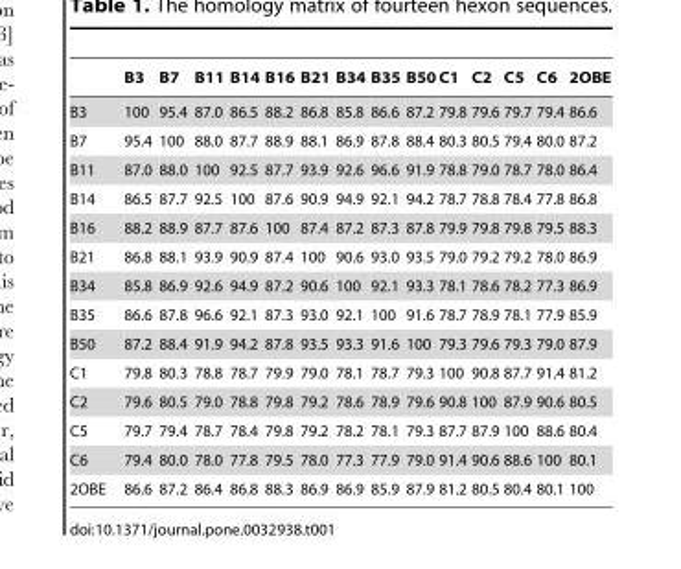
<table><thead><tr><td></td><td>B3</td><td>B7</td><td>B11</td><td>B14</td><td>B16</td><td>B21</td><td>B34</td><td>B35</td><td>B50</td><td>C1</td><td>C2</td><td>C5</td><td>C6</td><td>2OBE</td></tr></thead><tbody><tr><td>B3</td><td>100</td><td>95.4</td><td>87.0</td><td>86.5</td><td>88.2</td><td>86.8</td><td>85.8</td><td>86.6</td><td>87.2</td><td>79.8</td><td>79.6</td><td>79.7</td><td>79.4</td><td>86.6</td></tr><tr><td>B7</td><td>95.4</td><td>100</td><td>88.0</td><td>87.7</td><td>88.9</td><td>88.1</td><td>86.9</td><td>87.8</td><td>88.4</td><td>80.3</td><td>80.5</td><td>79.4</td><td>80.0</td><td>87.2</td></tr><tr><td>B11</td><td>87.0</td><td>88.0</td><td>100</td><td>92.5</td><td>87.7</td><td>93.9</td><td>92.6</td><td>96.6</td><td>91.9</td><td>78.8</td><td>79.0</td><td>78.7</td><td>78.0</td><td>86.4</td></tr><tr><td>B14</td><td>86.5</td><td>87.7</td><td>92.5</td><td>100</td><td>87.6</td><td>90.9</td><td>94.9</td><td>92.1</td><td>94.2</td><td>78.7</td><td>78.8</td><td>78.4</td><td>77.8</td><td>86.8</td></tr><tr><td>B16</td><td>88.2</td><td>88.9</td><td>87.7</td><td>87.6</td><td>100</td><td>87.4</td><td>87.2</td><td>87.3</td><td>87.8</td><td>79.9</td><td>79.8</td><td>79.8</td><td>79.5</td><td>88.3</td></tr><tr><td>B21</td><td>86.8</td><td>88.1</td><td>93.9</td><td>90.9</td><td>87.4</td><td>100</td><td>90.6</td><td>93.0</td><td>93.5</td><td>79.0</td><td>79.2</td><td>79.2</td><td>78.0</td><td>86.9</td></tr><tr><td>B34</td><td>85.8</td><td>86.9</td><td>92.6</td><td>94.9</td><td>87.2</td><td>90.6</td><td>100</td><td>92.1</td><td>93.3</td><td>78.1</td><td>78.6</td><td>78.2</td><td>77.3</td><td>86.9</td></tr><tr><td>B35</td><td>86.6</td><td>87.8</td><td>96.6</td><td>92.1</td><td>87.3</td><td>93.0</td><td>92.1</td><td>100</td><td>91.6</td><td>78.7</td><td>78.9</td><td>78.1</td><td>77.9</td><td>85.9</td></tr><tr><td>B50</td><td>87.2</td><td>88.4</td><td>91.9</td><td>94.2</td><td>87.8</td><td>93.5</td><td>93.3</td><td>91.6</td><td>100</td><td>79.3</td><td>79.6</td><td>79.3</td><td>79.0</td><td>87.9</td></tr><tr><td>C1</td><td>79.8</td><td>80.3</td><td>78.8</td><td>78.7</td><td>79.9</td><td>79.0</td><td>78.1</td><td>78.7</td><td>79.3</td><td>100</td><td>90.8</td><td>87.7</td><td>91.4</td><td>81.2</td></tr><tr><td>C2</td><td>79.6</td><td>80.5</td><td>79.0</td><td>78.8</td><td>79.8</td><td>79.2</td><td>78.6</td><td>78.9</td><td>79.6</td><td>90.8</td><td>100</td><td>87.9</td><td>90.6</td><td>80.5</td></tr><tr><td>C5</td><td>79.7</td><td>79.4</td><td>78.7</td><td>78.4</td><td>79.8</td><td>79.2</td><td>78.2</td><td>78.1</td><td>79.3</td><td>87.7</td><td>87.9</td><td>100</td><td>88.6</td><td>80.4</td></tr><tr><td>C6</td><td>79.4</td><td>80.0</td><td>78.0</td><td>77.8</td><td>79.5</td><td>78.0</td><td>77.3</td><td>77.9</td><td>79.0</td><td>91.4</td><td>90.6</td><td>88.6</td><td>100</td><td>80.1</td></tr><tr><td>2OBE</td><td>86.6</td><td>87.2</td><td>86.4</td><td>86.8</td><td>88.3</td><td>86.9</td><td>86.9</td><td>85.9</td><td>87.9</td><td>81.2</td><td>80.5</td><td>80.4</td><td>80.1</td><td>100</td></tr></tbody></table>